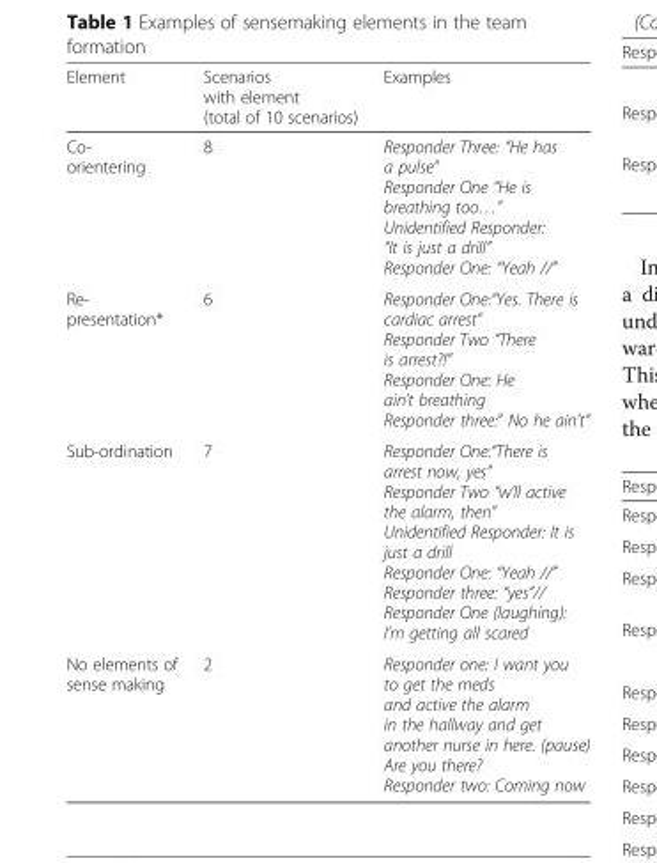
<table><thead><tr><td>Element</td><td>Scenarios with element (total of 10 scenarios)</td><td>Examples</td></tr></thead><tbody><tr><td>Co- orientering</td><td>8</td><td>Responder Three: “He has a pulse” Responder One “He is breathing too…” Unidentified Responder: “It is just a drill” Responder One: “Yeah //”</td></tr><tr><td>Re- presentation*</td><td>6</td><td>Responder One:“Yes. There is cardiac arrest” Responder Two “There is arrest?!” Responder One: He ain’t breathing Responder three:” No he ain’t”</td></tr><tr><td>Sub-ordination</td><td>7</td><td>Responder One:“There is arrest now, yes” Responder Two “w’ll active the alarm, then” Unidentified Responder: It is just a drill Responder One: “Yeah //” Responder three: “yes”// Responder One (laughing): I’m getting all scared</td></tr><tr><td>No elements of sense making</td><td>2</td><td>Responder one: I want you to get the meds and active the alarm in the hallway and get another nurse in here. (pause) Are you there? Responder two: Coming now</td></tr></tbody></table>